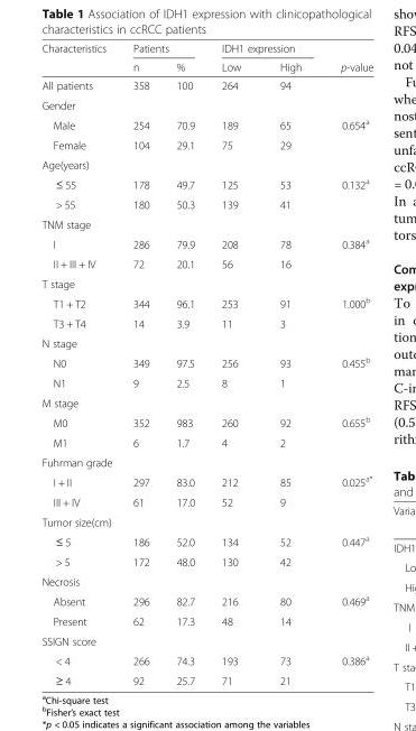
<table><thead><tr><td rowspan="2">Characteristics</td><td colspan="2">Patients</td><td colspan="2">IDH1 expression</td><td rowspan="2">p-value</td></tr><tr><td>n</td><td>%</td><td>Low</td><td>High</td></tr></thead><tbody><tr><td>All patients</td><td>358</td><td>100</td><td>264</td><td>94</td><td></td></tr><tr><td colspan="6">Gender</td></tr><tr><td>Male</td><td>254</td><td>70.9</td><td>189</td><td>65</td><td>0.654<sup>a</sup></td></tr><tr><td>Female</td><td>104</td><td>29.1</td><td>75</td><td>29</td><td></td></tr><tr><td colspan="6">Age(years)</td></tr><tr><td>≤ 55</td><td>178</td><td>49.7</td><td>125</td><td>53</td><td>0.132<sup>a</sup></td></tr><tr><td>&gt; 55</td><td>180</td><td>50.3</td><td>139</td><td>41</td><td></td></tr><tr><td colspan="6">TNM stage</td></tr><tr><td>I</td><td>286</td><td>79.9</td><td>208</td><td>78</td><td>0.384<sup>a</sup></td></tr><tr><td>II + III + IV</td><td>72</td><td>20.1</td><td>56</td><td>16</td><td></td></tr><tr><td colspan="6">T stage</td></tr><tr><td>T1 + T2</td><td>344</td><td>96.1</td><td>253</td><td>91</td><td>1.000<sup>b</sup></td></tr><tr><td>T3 + T4</td><td>14</td><td>3.9</td><td>11</td><td>3</td><td></td></tr><tr><td colspan="6">N stage</td></tr><tr><td>N0</td><td>349</td><td>97.5</td><td>256</td><td>93</td><td>0.455<sup>b</sup></td></tr><tr><td>N1</td><td>9</td><td>2.5</td><td>8</td><td>1</td><td></td></tr><tr><td colspan="6">M stage</td></tr><tr><td>M0</td><td>352</td><td>983</td><td>260</td><td>92</td><td>0.655<sup>b</sup></td></tr><tr><td>M1</td><td>6</td><td>1.7</td><td>4</td><td>2</td><td></td></tr><tr><td colspan="6">Fuhrman grade</td></tr><tr><td>I + II</td><td>297</td><td>83.0</td><td>212</td><td>85</td><td>0.025<sup>a*</sup></td></tr><tr><td>III + IV</td><td>61</td><td>17.0</td><td>52</td><td>9</td><td></td></tr><tr><td colspan="6">Tumor size(cm)</td></tr><tr><td>≤ 5</td><td>186</td><td>52.0</td><td>134</td><td>52</td><td>0.447<sup>a</sup></td></tr><tr><td>&gt; 5</td><td>172</td><td>48.0</td><td>130</td><td>42</td><td></td></tr><tr><td colspan="6">Necrosis</td></tr><tr><td>Absent</td><td>296</td><td>82.7</td><td>216</td><td>80</td><td>0.469<sup>a</sup></td></tr><tr><td>Present</td><td>62</td><td>17.3</td><td>48</td><td>14</td><td></td></tr><tr><td colspan="6">SSIGN score</td></tr><tr><td>&lt; 4</td><td>266</td><td>74.3</td><td>193</td><td>73</td><td>0.386<sup>a</sup></td></tr><tr><td>≥ 4</td><td>92</td><td>25.7</td><td>71</td><td>21</td><td></td></tr></tbody></table>